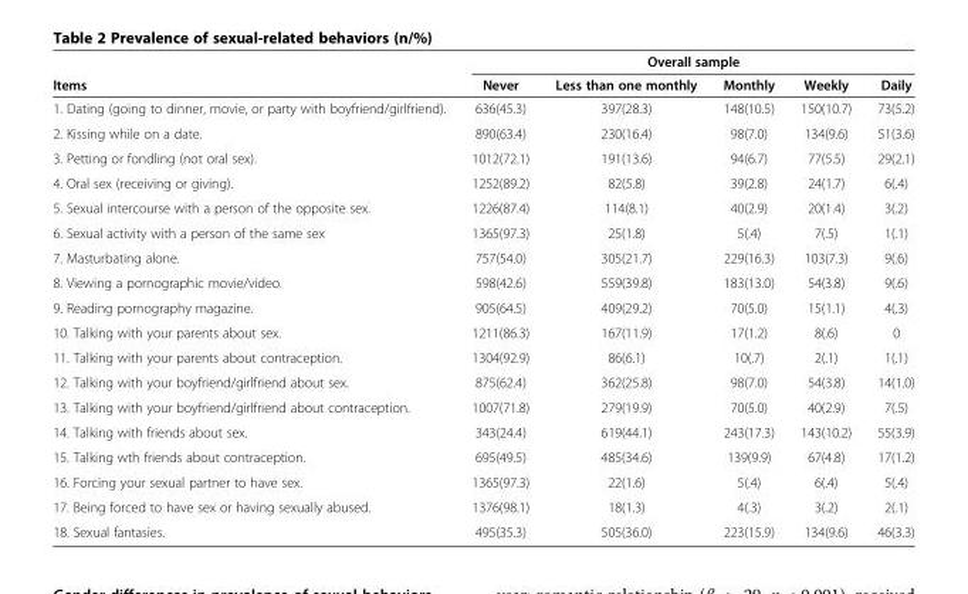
<table><thead><tr><td rowspan="2">Items</td><td colspan="5">Overall sample</td></tr><tr><td>Never</td><td>Less than one monthly</td><td>Monthly</td><td>Weekly</td><td>Daily</td></tr></thead><tbody><tr><td>1. Dating (going to dinner, movie, or party with boyfriend/girlfriend).</td><td>636(45.3)</td><td>397(28.3)</td><td>148(10.5)</td><td>150(10.7)</td><td>73(5.2)</td></tr><tr><td>2. Kissing while on a date.</td><td>890(63.4)</td><td>230(16.4)</td><td>98(7.0)</td><td>134(9.6)</td><td>51(3.6)</td></tr><tr><td>3. Petting or fondling (not oral sex).</td><td>1012(72.1)</td><td>191(13.6)</td><td>94(6.7)</td><td>77(5.5)</td><td>29(2.1)</td></tr><tr><td>4. Oral sex (receiving or giving).</td><td>1252(89.2)</td><td>82(5.8)</td><td>39(2.8)</td><td>24(1.7)</td><td>6(.4)</td></tr><tr><td>5. Sexual intercourse with a person of the opposite sex.</td><td>1226(87.4)</td><td>114(8.1)</td><td>40(2.9)</td><td>20(1.4)</td><td>3(.2)</td></tr><tr><td>6. Sexual activity with a person of the same sex</td><td>1365(97.3)</td><td>25(1.8)</td><td>5(.4)</td><td>7(.5)</td><td>1(.1)</td></tr><tr><td>7. Masturbating alone.</td><td>757(54.0)</td><td>305(21.7)</td><td>229(16.3)</td><td>103(7.3)</td><td>9(.6)</td></tr><tr><td>8. Viewing a pornographic movie/video.</td><td>598(42.6)</td><td>559(39.8)</td><td>183(13.0)</td><td>54(3.8)</td><td>9(.6)</td></tr><tr><td>9. Reading pornography magazine.</td><td>905(64.5)</td><td>409(29.2)</td><td>70(5.0)</td><td>15(1.1)</td><td>4(.3)</td></tr><tr><td>10. Talking with your parents about sex.</td><td>1211(86.3)</td><td>167(11.9)</td><td>17(1.2)</td><td>8(.6)</td><td>0</td></tr><tr><td>11. Talking with your parents about contraception.</td><td>1304(92.9)</td><td>86(6.1)</td><td>10(.7)</td><td>2(.1)</td><td>1(.1)</td></tr><tr><td>12. Talking with your boyfriend/girlfriend about sex.</td><td>875(62.4)</td><td>362(25.8)</td><td>98(7.0)</td><td>54(3.8)</td><td>14(1.0)</td></tr><tr><td>13. Talking with your boyfriend/girlfriend about contraception.</td><td>1007(71.8)</td><td>279(19.9)</td><td>70(5.0)</td><td>40(2.9)</td><td>7(.5)</td></tr><tr><td>14. Talking with friends about sex.</td><td>343(24.4)</td><td>619(44.1)</td><td>243(17.3)</td><td>143(10.2)</td><td>55(3.9)</td></tr><tr><td>15. Talking wth friends about contraception.</td><td>695(49.5)</td><td>485(34.6)</td><td>139(9.9)</td><td>67(4.8)</td><td>17(1.2)</td></tr><tr><td>16. Forcing your sexual partner to have sex.</td><td>1365(97.3)</td><td>22(1.6)</td><td>5(.4)</td><td>6(.4)</td><td>5(.4)</td></tr><tr><td>17. Being forced to have sex or having sexually abused.</td><td>1376(98.1)</td><td>18(1.3)</td><td>4(.3)</td><td>3(.2)</td><td>2(.1)</td></tr><tr><td>18. Sexual fantasies.</td><td>495(35.3)</td><td>505(36.0)</td><td>223(15.9)</td><td>134(9.6)</td><td>46(3.3)</td></tr></tbody></table>